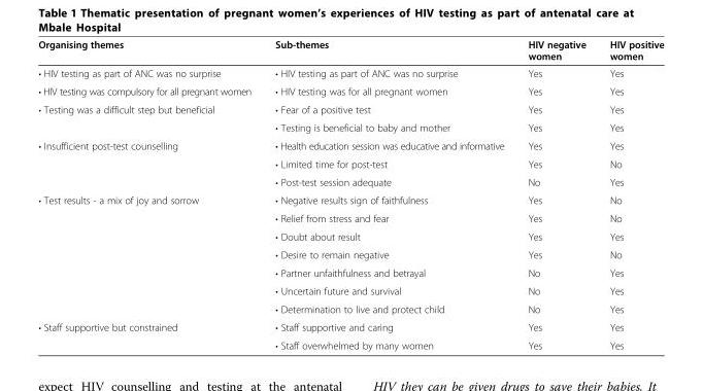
<table><thead><tr><td>Organising themes</td><td>Sub-themes</td><td>HIV negative women</td><td>HIV positive women</td></tr></thead><tbody><tr><td>• HIV testing as part of ANC was no surprise</td><td>• HIV testing as part of ANC was no surprise</td><td>Yes</td><td>Yes</td></tr><tr><td>• HIV testing was compulsory for all pregnant women</td><td>• HIV testing was for all pregnant women</td><td>Yes</td><td>Yes</td></tr><tr><td rowspan="2">• Testing was a difficult step but beneficial</td><td>• Fear of a positive test</td><td>Yes</td><td>Yes</td></tr><tr><td>• Testing is beneficial to baby and mother</td><td>Yes</td><td>Yes</td></tr><tr><td rowspan="3">• Insufficient post-test counselling</td><td>• Health education session was educative and informative</td><td>Yes</td><td>Yes</td></tr><tr><td>• Limited time for post-test</td><td>Yes</td><td>No</td></tr><tr><td>• Post-test session adequate</td><td>No</td><td>Yes</td></tr><tr><td rowspan="7">• Test results - a mix of joy and sorrow</td><td>• Negative results sign of faithfulness</td><td>Yes</td><td>No</td></tr><tr><td>• Relief from stress and fear</td><td>Yes</td><td>No</td></tr><tr><td>• Doubt about result</td><td>Yes</td><td>Yes</td></tr><tr><td>• Desire to remain negative</td><td>Yes</td><td>No</td></tr><tr><td>• Partner unfaithfulness and betrayal</td><td>No</td><td>Yes</td></tr><tr><td>• Uncertain future and survival</td><td>No</td><td>Yes</td></tr><tr><td>• Determination to live and protect child</td><td>No</td><td>Yes</td></tr><tr><td rowspan="2">• Staff supportive but constrained</td><td>• Staff supportive and caring</td><td>Yes</td><td>Yes</td></tr><tr><td>• Staff overwhelmed by many women</td><td>Yes</td><td>Yes</td></tr></tbody></table>